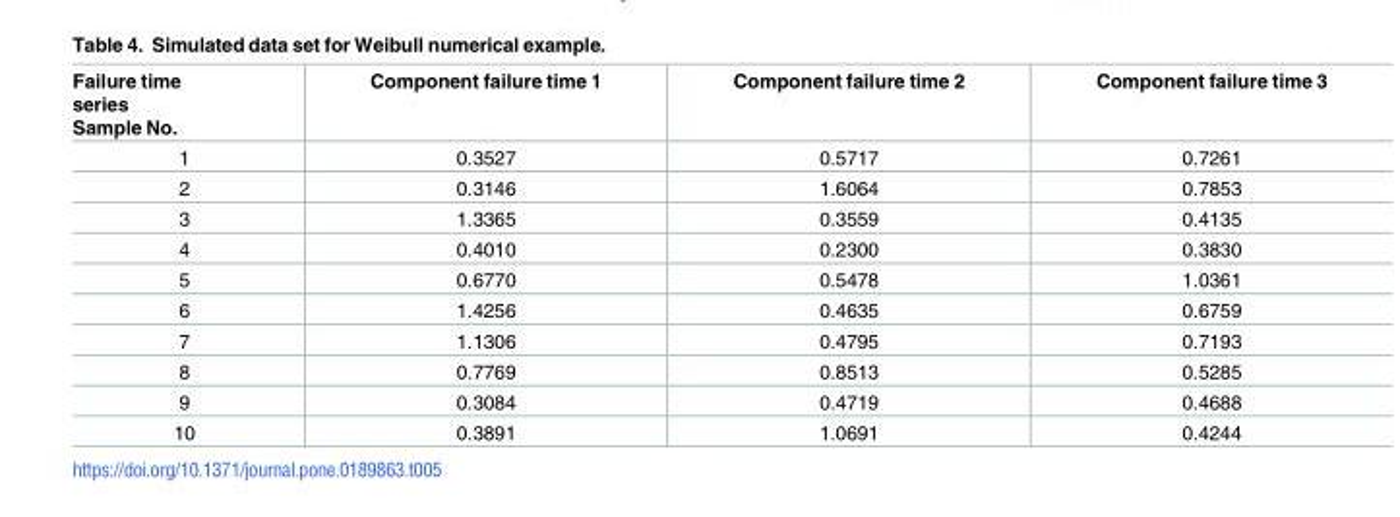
<table><thead><tr><td>Failure time series Sample No.</td><td>Component failure time 1</td><td>Component failure time 2</td><td>Component failure time 3</td></tr></thead><tbody><tr><td>1</td><td>0.3527</td><td>0.5717</td><td>0.7261</td></tr><tr><td>2</td><td>0.3146</td><td>1.6064</td><td>0.7853</td></tr><tr><td>3</td><td>1.3365</td><td>0.3559</td><td>0.4135</td></tr><tr><td>4</td><td>0.4010</td><td>0.2300</td><td>0.3830</td></tr><tr><td>5</td><td>0.6770</td><td>0.5478</td><td>1.0361</td></tr><tr><td>6</td><td>1.4256</td><td>0.4635</td><td>0.6759</td></tr><tr><td>7</td><td>1.1306</td><td>0.4795</td><td>0.7193</td></tr><tr><td>8</td><td>0.7769</td><td>0.8513</td><td>0.5285</td></tr><tr><td>9</td><td>0.3084</td><td>0.4719</td><td>0.4688</td></tr><tr><td>10</td><td>0.3891</td><td>1.0691</td><td>0.4244</td></tr></tbody></table>